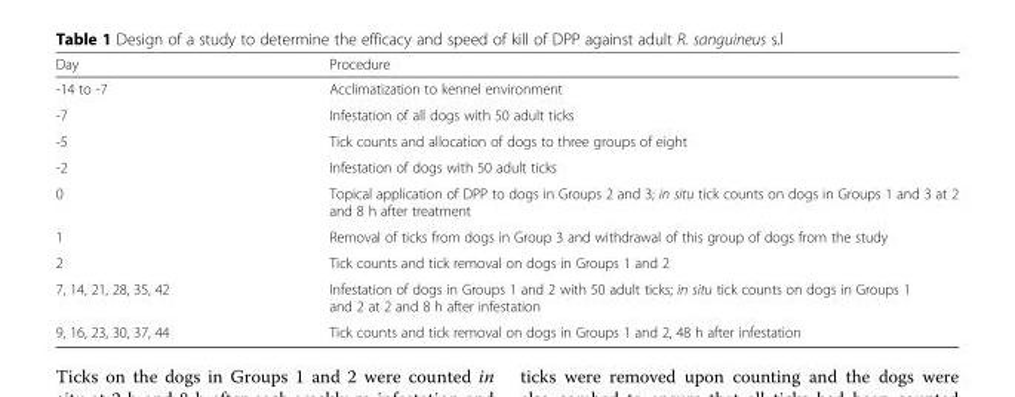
<table><thead><tr><td>Day</td><td>Procedure</td></tr></thead><tbody><tr><td>-14 to -7</td><td>Acclimatization to kennel environment</td></tr><tr><td>-7</td><td>Infestation of all dogs with 50 adult ticks</td></tr><tr><td>-5</td><td>Tick counts and allocation of dogs to three groups of eight</td></tr><tr><td>-2</td><td>Infestation of dogs with 50 adult ticks</td></tr><tr><td>0</td><td>Topical application of DPP to dogs in Groups 2 and 3; in situ tick counts on dogs in Groups 1 and 3 at 2 and 8 h after treatment</td></tr><tr><td>1</td><td>Removal of ticks from dogs in Group 3 and withdrawal of this group of dogs from the study</td></tr><tr><td>2</td><td>Tick counts and tick removal on dogs in Groups 1 and 2</td></tr><tr><td>7, 14, 21, 28, 35, 42</td><td>Infestation of dogs in Groups 1 and 2 with 50 adult ticks; in situ tick counts on dogs in Groups 1 and 2 at 2 and 8 h after infestation</td></tr><tr><td>9, 16, 23, 30, 37, 44</td><td>Tick counts and tick removal on dogs in Groups 1 and 2, 48 h after infestation</td></tr></tbody></table>